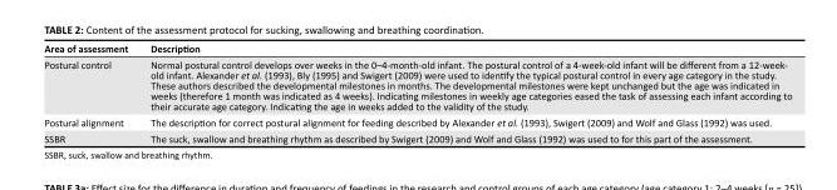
<table><thead><tr><td>Area of assessment</td><td>Description</td></tr></thead><tbody><tr><td>Postural control</td><td>Normal postural control develops over weeks in the 0–4-month-old infant. The postural control of a 4-week-old infant will be different from a 12-week- old infant. Alexander et al. (1993), Bly (1995) and Swigert (2009) were used to identify the typical postural control in every age category in the study. These authors described the developmental milestones in months. The developmental milestones were kept unchanged but the age was indicated in weeks (therefore 1 month was indicated as 4 weeks). Indicating milestones in weekly age categories eased the task of assessing each infant according to their accurate age category. Indicating the age in weeks added to the validity of the study.</td></tr><tr><td>Postural alignment</td><td>The description for correct postural alignment for feeding described by Alexander et al. (1993), Swigert (2009) and Wolf and Glass (1992) was used.</td></tr><tr><td>SSBR</td><td>The suck, swallow and breathing rhythm as described by Swigert (2009) and Wolf and Glass (1992) was used to for this part of the assessment.</td></tr></tbody></table>